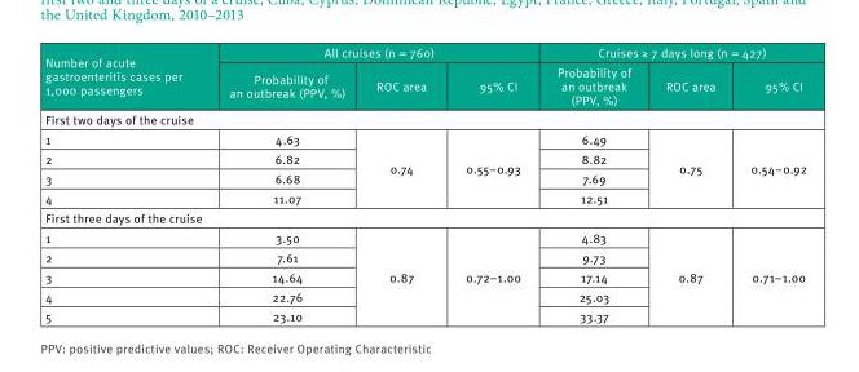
<table><thead><tr><td rowspan="2">Number of acute gastroenteritis cases per 1,000 passengers</td><td colspan="3">All cruises (n = 760)</td><td colspan="3">Cruises ≥ 7 days long (n = 427)</td></tr><tr><td>Probability of an outbreak (PPV, %)</td><td>ROC area</td><td>95% CI</td><td>Probability of an outbreak (PPV, %)</td><td>ROC area</td><td>95% CI</td></tr></thead><tbody><tr><td colspan="7">First two days of the cruise</td></tr><tr><td>1</td><td>4.63</td><td rowspan="4">0.74</td><td rowspan="4">0.55–0.93</td><td>6.49</td><td rowspan="4">0.75</td><td rowspan="4">0.54–0.92</td></tr><tr><td>2</td><td>6.82</td><td>8.82</td></tr><tr><td>3</td><td>6.68</td><td>7.69</td></tr><tr><td>4</td><td>11.07</td><td>12.51</td></tr><tr><td colspan="7">First three days of the cruise</td></tr><tr><td>1</td><td>3.50</td><td rowspan="5">0.87</td><td rowspan="5">0.72–1.00</td><td>4.83</td><td rowspan="5">0.87</td><td rowspan="5">0.71–1.00</td></tr><tr><td>2</td><td>7.61</td><td>9.73</td></tr><tr><td>3</td><td>14.64</td><td>17.14</td></tr><tr><td>4</td><td>22.76</td><td>25.03</td></tr><tr><td>5</td><td>23.10</td><td>33.37</td></tr></tbody></table>